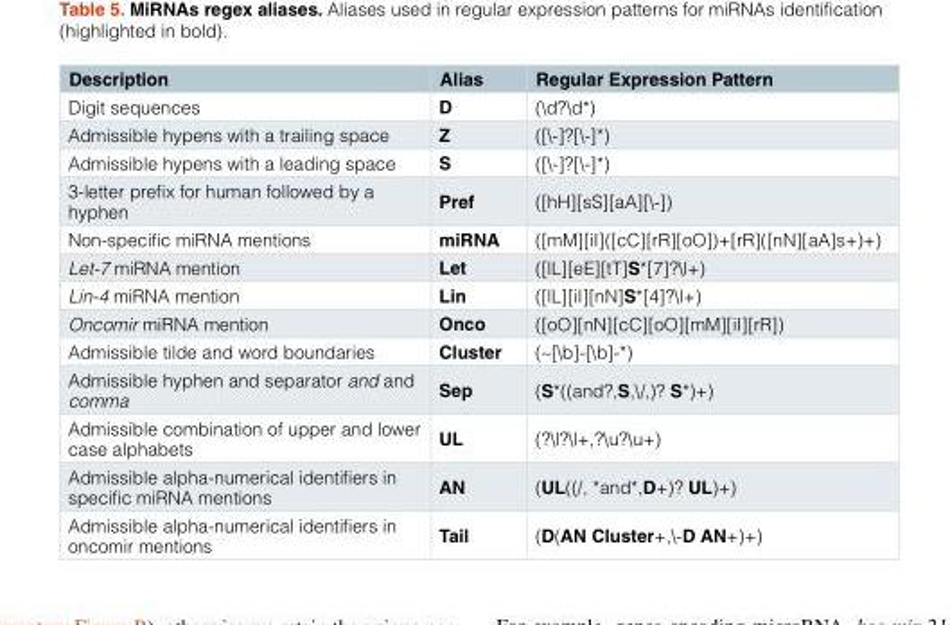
<table><thead><tr><td>Description</td><td>Alias</td><td>Regular Expression Pattern</td></tr></thead><tbody><tr><td>Digit sequences</td><td>D</td><td>(\d?\d*)</td></tr><tr><td>Admissible hypens with a trailing space</td><td>Z</td><td>([\-]?[\-]*)</td></tr><tr><td>Admissible hypens with a leading space</td><td>S</td><td>([\-]?[\-]*)</td></tr><tr><td>3-letter prefix for human followed by a hyphen</td><td>Pref</td><td>([hH][sS][aA][\-])</td></tr><tr><td>Non-specific miRNA mentions</td><td>miRNA</td><td>([mM][iI]([cC][rR][oO])+[rR]([nN][aA]s+)+)</td></tr><tr><td>Let-7 miRNA mention</td><td>Let</td><td>([lL][eE][tT]S*[7]?\l+)</td></tr><tr><td>Lin-4 miRNA mention</td><td>Lin</td><td>([lL][iI][nN]S*[4]?\l+)</td></tr><tr><td>Oncomir miRNA mention</td><td>Onco</td><td>([oO][nN][cC][oO][mM][iI][rR])</td></tr><tr><td>Admissible tilde and word boundaries</td><td>Cluster</td><td>(∼[\b]-[\b]-*)</td></tr><tr><td>Admissible hyphen and separator and and comma</td><td>Sep</td><td>(S*((and?,S,\/,)? S*)+)</td></tr><tr><td>Admissible combination of upper and lower case alphabets</td><td>UL</td><td>(?\l?\l+,?�?�+)</td></tr><tr><td>Admissible alpha-numerical identifiers in specific miRNA mentions</td><td>AN</td><td>(UL((/, *and*,D+)? UL)+)</td></tr><tr><td>Admissible alpha-numerical identifiers in oncomir mentions</td><td>Tail</td><td>(D(AN Cluster+,\-D AN+)+)</td></tr></tbody></table>